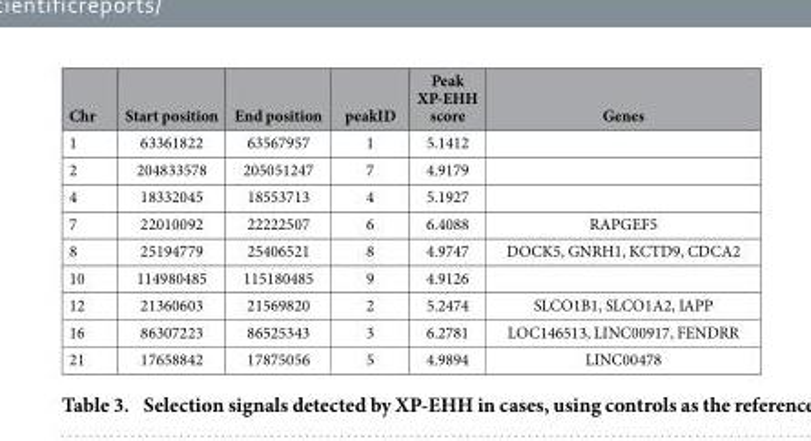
<table><thead><tr><td>Chr</td><td>Start position</td><td>End position</td><td>peakID</td><td>Peak XP-EHH score</td><td>Genes</td></tr></thead><tbody><tr><td>1</td><td>63361822</td><td>63567957</td><td>1</td><td>5.1412</td><td></td></tr><tr><td>2</td><td>204833578</td><td>205051247</td><td>7</td><td>4.9179</td><td></td></tr><tr><td>4</td><td>18332045</td><td>18553713</td><td>4</td><td>5.1927</td><td></td></tr><tr><td>7</td><td>22010092</td><td>22222507</td><td>6</td><td>6.4088</td><td>RAPGEF5</td></tr><tr><td>8</td><td>25194779</td><td>25406521</td><td>8</td><td>4.9747</td><td>DOCK5, GNRH1, KCTD9, CDCA2</td></tr><tr><td>10</td><td>114980485</td><td>115180485</td><td>9</td><td>4.9126</td><td></td></tr><tr><td>12</td><td>21360603</td><td>21569820</td><td>2</td><td>5.2474</td><td>SLCO1B1, SLCO1A2, IAPP</td></tr><tr><td>16</td><td>86307223</td><td>86525343</td><td>3</td><td>6.2781</td><td>LOC146513, LINC00917, FENDRR</td></tr><tr><td>21</td><td>17658842</td><td>17875056</td><td>5</td><td>4.9894</td><td>LINC00478</td></tr></tbody></table>